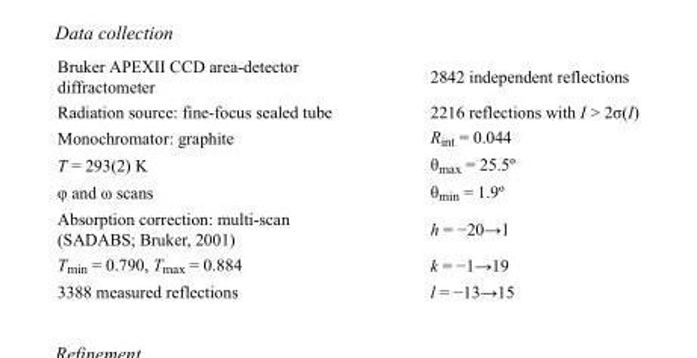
<table><tbody><tr><td>Bruker APEXII CCD area-detector diffractometer</td><td>2842 independent reflections</td></tr><tr><td>Radiation source: fine-focus sealed tube</td><td>2216 reflections with I &gt; 2σ(I)</td></tr><tr><td>Monochromator: graphite</td><td>R<sub>int</sub> = 0.044</td></tr><tr><td>T = 293(2) K</td><td>θ<sub>max</sub> = 25.5º</td></tr><tr><td>φ and ω scans</td><td>θ<sub>min</sub> = 1.9º</td></tr><tr><td>Absorption correction: multi-scan (SADABS; Bruker, 2001)</td><td>h = −20→1</td></tr><tr><td>T<sub>min</sub> = 0.790, T<sub>max</sub> = 0.884</td><td>k = −1→19</td></tr><tr><td>3388 measured reflections</td><td>l = −13→15</td></tr></tbody></table>